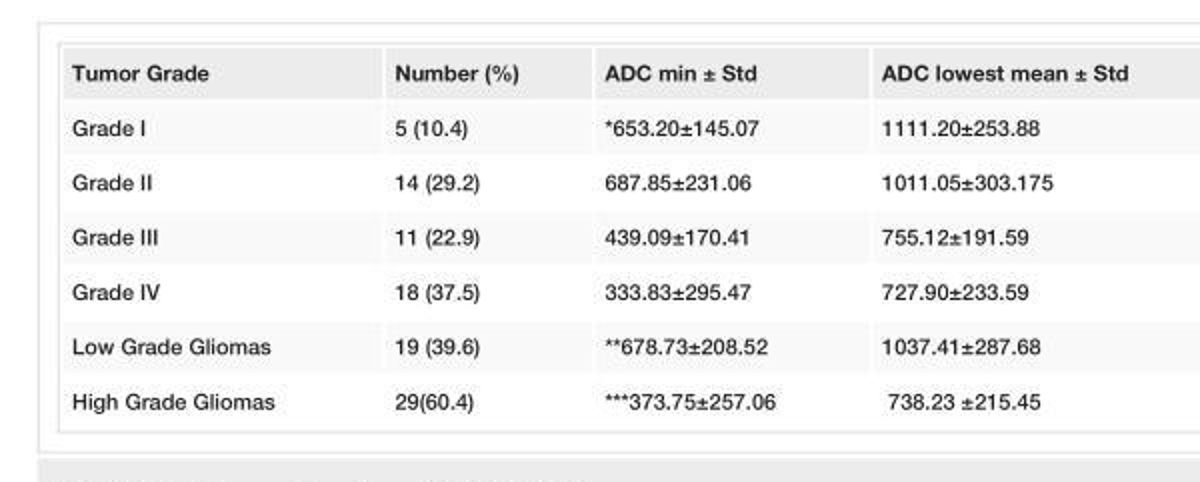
<table><tbody><tr><td>Tumor Grade</td><td>Number (%)</td><td>ADC min ± Std</td><td>ADC lowest mean ± Std</td></tr><tr><td>Grade I</td><td>5 (10.4)</td><td>*653.20±145.07</td><td>1111.20±253.88</td></tr><tr><td>Grade II</td><td>14 (29.2)</td><td>687.85±231.06</td><td>1011.05±303.175</td></tr><tr><td>Grade III</td><td>11 (22.9)</td><td>439.09±170.41</td><td>755.12±191.59</td></tr><tr><td>Grade IV</td><td>18 (37.5)</td><td>333.83±295.47</td><td>727.90±233.59</td></tr><tr><td>Low Grade Gliomas</td><td>19 (39.6)</td><td>**678.73±208.52</td><td>1037.41±287.68</td></tr><tr><td>High Grade Gliomas</td><td>29(60.4)</td><td>***373.75±257.06</td><td>738.23 ±215.45</td></tr></tbody></table>